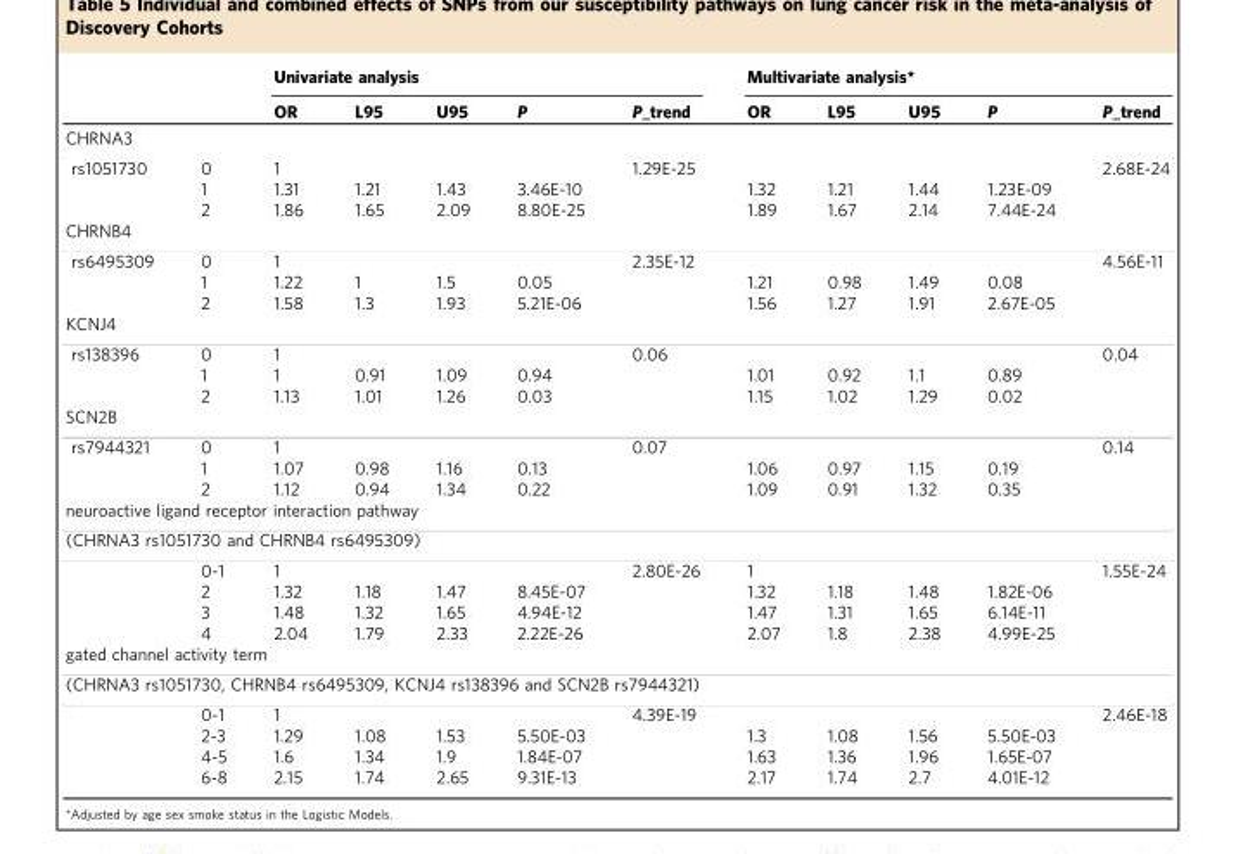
<table><thead><tr><td rowspan="2"></td><td rowspan="2"></td><td colspan="5">Univariate analysis</td><td colspan="5">Multivariate analysis*</td></tr><tr><td>OR</td><td>L95</td><td>U95</td><td>P</td><td>P_trend</td><td>OR</td><td>L95</td><td>U95</td><td>P</td><td>P_trend</td></tr></thead><tbody><tr><td colspan="12">CHRNA3</td></tr><tr><td rowspan="3">rs1051730</td><td>0</td><td>1</td><td></td><td></td><td></td><td>1.29E-25</td><td></td><td></td><td></td><td></td><td>2.68E-24</td></tr><tr><td>1</td><td>1.31</td><td>1.21</td><td>1.43</td><td>3.46E-10</td><td></td><td>1.32</td><td>1.21</td><td>1.44</td><td>1.23E-09</td><td></td></tr><tr><td>2</td><td>1.86</td><td>1.65</td><td>2.09</td><td>8.80E-25</td><td></td><td>1.89</td><td>1.67</td><td>2.14</td><td>7.44E-24</td><td></td></tr><tr><td colspan="12">CHRNB4</td></tr><tr><td rowspan="3">rs6495309</td><td>0</td><td>1</td><td></td><td></td><td></td><td>2.35E-12</td><td></td><td></td><td></td><td></td><td>4.56E-11</td></tr><tr><td>1</td><td>1.22</td><td>1</td><td>1.5</td><td>0.05</td><td></td><td>1.21</td><td>0.98</td><td>1.49</td><td>0.08</td><td></td></tr><tr><td>2</td><td>1.58</td><td>1.3</td><td>1.93</td><td>5.21E-06</td><td></td><td>1.56</td><td>1.27</td><td>1.91</td><td>2.67E-05</td><td></td></tr><tr><td colspan="12">KCNJ4</td></tr><tr><td rowspan="3">rs138396</td><td>0</td><td>1</td><td></td><td></td><td></td><td>0.06</td><td></td><td></td><td></td><td></td><td>0.04</td></tr><tr><td>1</td><td>1</td><td>0.91</td><td>1.09</td><td>0.94</td><td></td><td>1.01</td><td>0.92</td><td>1.1</td><td>0.89</td><td></td></tr><tr><td>2</td><td>1.13</td><td>1.01</td><td>1.26</td><td>0.03</td><td></td><td>1.15</td><td>1.02</td><td>1.29</td><td>0.02</td><td></td></tr><tr><td colspan="12">SCN2B</td></tr><tr><td rowspan="3">rs7944321</td><td>0</td><td>1</td><td></td><td></td><td></td><td>0.07</td><td></td><td></td><td></td><td></td><td>0.14</td></tr><tr><td>1</td><td>1.07</td><td>0.98</td><td>1.16</td><td>0.13</td><td></td><td>1.06</td><td>0.97</td><td>1.15</td><td>0.19</td><td></td></tr><tr><td>2</td><td>1.12</td><td>0.94</td><td>1.34</td><td>0.22</td><td></td><td>1.09</td><td>0.91</td><td>1.32</td><td>0.35</td><td></td></tr><tr><td colspan="12">neuroactive ligand receptor interaction pathway</td></tr><tr><td colspan="12">(CHRNA3 rs1051730 and CHRNB4 rs6495309)</td></tr><tr><td></td><td>0-1</td><td>1</td><td></td><td></td><td></td><td>2.80E-26</td><td>1</td><td></td><td></td><td></td><td>1.55E-24</td></tr><tr><td></td><td>2</td><td>1.32</td><td>1.18</td><td>1.47</td><td>8.45E-07</td><td></td><td>1.32</td><td>1.18</td><td>1.48</td><td>1.82E-06</td><td></td></tr><tr><td></td><td>3</td><td>1.48</td><td>1.32</td><td>1.65</td><td>4.94E-12</td><td></td><td>1.47</td><td>1.31</td><td>1.65</td><td>6.14E-11</td><td></td></tr><tr><td></td><td>4</td><td>2.04</td><td>1.79</td><td>2.33</td><td>2.22E-26</td><td></td><td>2.07</td><td>1.8</td><td>2.38</td><td>4.99E-25</td><td></td></tr><tr><td colspan="12">gated channel activity term</td></tr><tr><td colspan="12">(CHRNA3 rs1051730, CHRNB4 rs6495309, KCNJ4 rs138396 and SCN2B rs7944321)</td></tr><tr><td></td><td>0-1</td><td>1</td><td></td><td></td><td></td><td>4.39E-19</td><td></td><td></td><td></td><td></td><td>2.46E-18</td></tr><tr><td></td><td>2-3</td><td>1.29</td><td>1.08</td><td>1.53</td><td>5.50E-03</td><td></td><td>1.3</td><td>1.08</td><td>1.56</td><td>5.50E-03</td><td></td></tr><tr><td></td><td>4-5</td><td>1.6</td><td>1.34</td><td>1.9</td><td>1.84E-07</td><td></td><td>1.63</td><td>1.36</td><td>1.96</td><td>1.65E-07</td><td></td></tr><tr><td></td><td>6-8</td><td>2.15</td><td>1.74</td><td>2.65</td><td>9.31E-13</td><td></td><td>2.17</td><td>1.74</td><td>2.7</td><td>4.01E-12</td><td></td></tr></tbody></table>